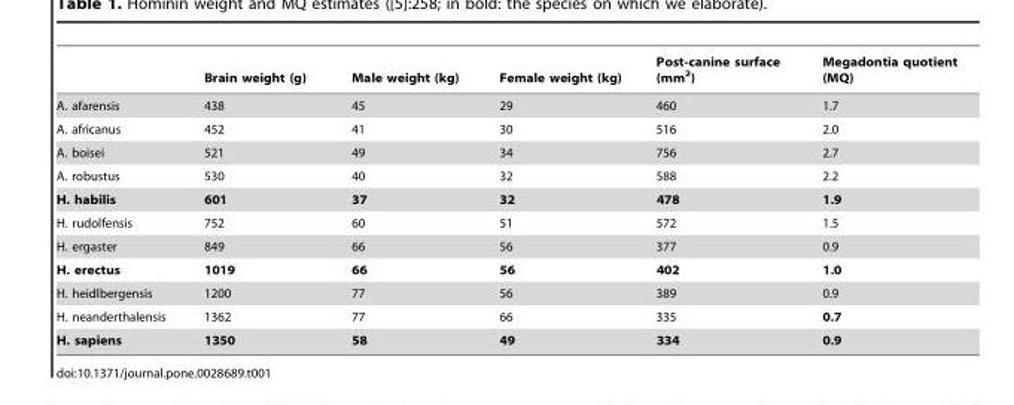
<table><thead><tr><td></td><td>Brain weight (g)</td><td>Male weight (kg)</td><td>Female weight (kg)</td><td>Post-canine surface (mm<sup>2</sup>)</td><td>Megadontia quotient (MQ)</td></tr></thead><tbody><tr><td>A. afarensis</td><td>438</td><td>45</td><td>29</td><td>460</td><td>1.7</td></tr><tr><td>A. africanus</td><td>452</td><td>41</td><td>30</td><td>516</td><td>2.0</td></tr><tr><td>A. boisei</td><td>521</td><td>49</td><td>34</td><td>756</td><td>2.7</td></tr><tr><td>A. robustus</td><td>530</td><td>40</td><td>32</td><td>588</td><td>2.2</td></tr><tr><td>H. habilis</td><td>601</td><td>37</td><td>32</td><td>478</td><td>1.9</td></tr><tr><td>H. rudolfensis</td><td>752</td><td>60</td><td>51</td><td>572</td><td>1.5</td></tr><tr><td>H. ergaster</td><td>849</td><td>66</td><td>56</td><td>377</td><td>0.9</td></tr><tr><td>H. erectus</td><td>1019</td><td>66</td><td>56</td><td>402</td><td>1.0</td></tr><tr><td>H. heidlbergensis</td><td>1200</td><td>77</td><td>56</td><td>389</td><td>0.9</td></tr><tr><td>H. neanderthalensis</td><td>1362</td><td>77</td><td>66</td><td>335</td><td>0.7</td></tr><tr><td>H. sapiens</td><td>1350</td><td>58</td><td>49</td><td>334</td><td>0.9</td></tr></tbody></table>